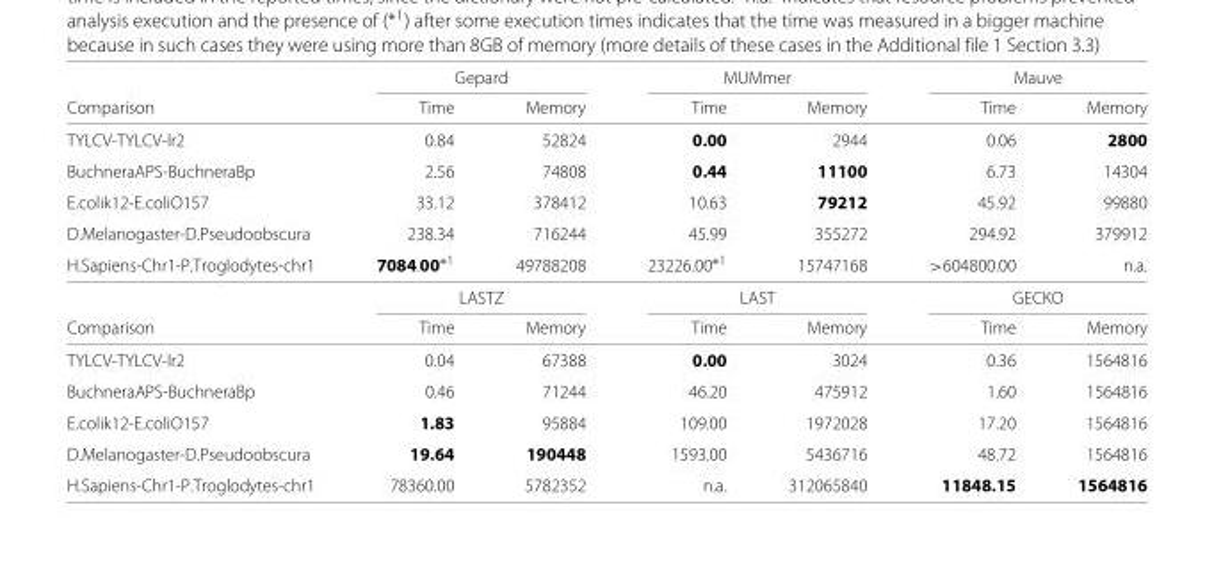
<table><thead><tr><td rowspan="2">Comparison</td><td colspan="2">Gepard</td><td colspan="2">MUMmer</td><td colspan="2">Mauve</td></tr><tr><td>Time</td><td>Memory</td><td>Time</td><td>Memory</td><td>Time</td><td>Memory</td></tr></thead><tbody><tr><td>TYLCV-TYLCV-lr2</td><td>0.84</td><td>52824</td><td>0.00</td><td>2944</td><td>0.06</td><td>2800</td></tr><tr><td>BuchneraAPS-BuchneraBp</td><td>2.56</td><td>74808</td><td>0.44</td><td>11100</td><td>6.73</td><td>14304</td></tr><tr><td>E.colik12-E.coliO157</td><td>33.12</td><td>378412</td><td>10.63</td><td>79212</td><td>45.92</td><td>99880</td></tr><tr><td>D.Melanogaster-D.Pseudoobscura</td><td>238.34</td><td>716244</td><td>45.99</td><td>355272</td><td>294.92</td><td>379912</td></tr><tr><td rowspan="2">H.Sapiens-Chr1-P.Troglodytes-chr1</td><td>7084.00<sup>∗1</sup></td><td>49788208</td><td>23226.00<sup>∗1</sup></td><td>15747168</td><td>&gt;604800.00</td><td>n.a.</td></tr><tr><td colspan="2">LASTZ</td><td colspan="2">LAST</td><td colspan="2">GECKO</td></tr><tr><td>Comparison</td><td>Time</td><td>Memory</td><td>Time</td><td>Memory</td><td>Time</td><td>Memory</td></tr><tr><td>TYLCV-TYLCV-lr2</td><td>0.04</td><td>67388</td><td>0.00</td><td>3024</td><td>0.36</td><td>1564816</td></tr><tr><td>BuchneraAPS-BuchneraBp</td><td>0.46</td><td>71244</td><td>46.20</td><td>475912</td><td>1.60</td><td>1564816</td></tr><tr><td>E.colik12-E.coliO157</td><td>1.83</td><td>95884</td><td>109.00</td><td>1972028</td><td>17.20</td><td>1564816</td></tr><tr><td>D.Melanogaster-D.Pseudoobscura</td><td>19.64</td><td>190448</td><td>1593.00</td><td>5436716</td><td>48.72</td><td>1564816</td></tr><tr><td>H.Sapiens-Chr1-P.Troglodytes-chr1</td><td>78360.00</td><td>5782352</td><td>n.a.</td><td>312065840</td><td>11848.15</td><td>1564816</td></tr></tbody></table>